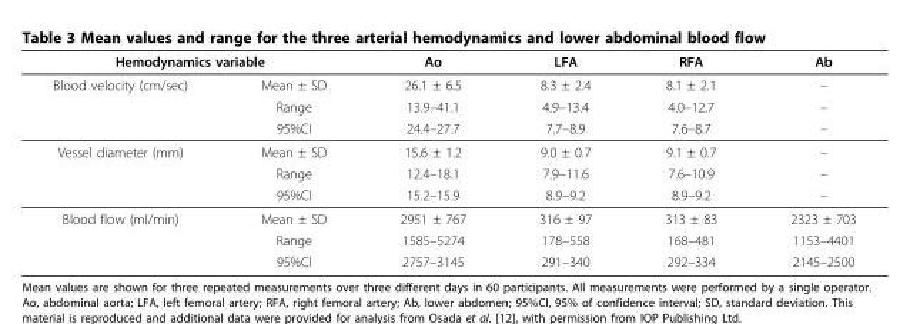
<table><thead><tr><td colspan="2">Hemodynamics variable</td><td rowspan="2">Ao 26.1 ± 6.5</td><td rowspan="2">LFA 8.3 ± 2.4</td><td rowspan="2">RFA 8.1 ± 2.1</td><td rowspan="2">Ab –</td></tr><tr><td>Blood velocity (cm/sec)</td><td>Mean ± SD</td></tr></thead><tbody><tr><td></td><td>Range</td><td>13.9–41.1</td><td>4.9–13.4</td><td>4.0–12.7</td><td>–</td></tr><tr><td></td><td>95%CI</td><td>24.4–27.7</td><td>7.7–8.9</td><td>7.6–8.7</td><td>–</td></tr><tr><td rowspan="3">Vessel diameter (mm)</td><td>Mean ± SD</td><td>15.6 ± 1.2</td><td>9.0 ± 0.7</td><td>9.1 ± 0.7</td><td>–</td></tr><tr><td>Range</td><td>12.4–18.1</td><td>7.9–11.6</td><td>7.6–10.9</td><td>–</td></tr><tr><td>95%CI</td><td>15.2–15.9</td><td>8.9–9.2</td><td>8.9–9.2</td><td>–</td></tr><tr><td rowspan="3">Blood flow (ml/min)</td><td>Mean ± SD</td><td>2951 ± 767</td><td>316 ± 97</td><td>313 ± 83</td><td>2323 ± 703</td></tr><tr><td>Range</td><td>1585–5274</td><td>178–558</td><td>168–481</td><td>1153–4401</td></tr><tr><td>95%CI</td><td>2757–3145</td><td>291–340</td><td>292–334</td><td>2145–2500</td></tr></tbody></table>